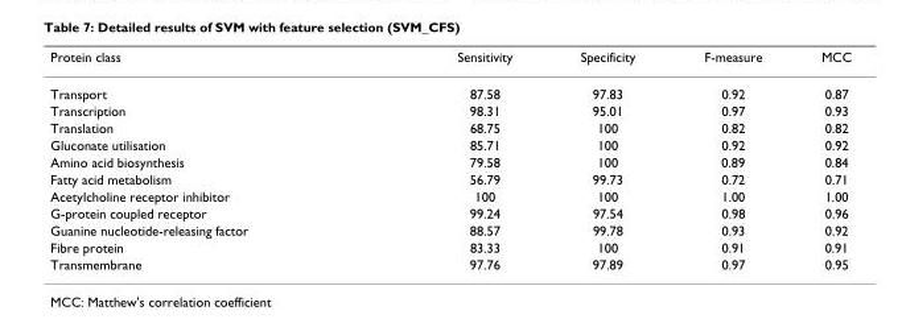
<table><thead><tr><td>Protein class</td><td>Sensitivity</td><td>Specificity</td><td>F-measure</td><td>MCC</td></tr></thead><tbody><tr><td>Transport</td><td>87.58</td><td>97.83</td><td>0.92</td><td>0.87</td></tr><tr><td>Transcription</td><td>98.31</td><td>95.01</td><td>0.97</td><td>0.93</td></tr><tr><td>Translation</td><td>68.75</td><td>100</td><td>0.82</td><td>0.82</td></tr><tr><td>Gluconate utilisation</td><td>85.71</td><td>100</td><td>0.92</td><td>0.92</td></tr><tr><td>Amino acid biosynthesis</td><td>79.58</td><td>100</td><td>0.89</td><td>0.84</td></tr><tr><td>Fatty acid metabolism</td><td>56.79</td><td>99.73</td><td>0.72</td><td>0.71</td></tr><tr><td>Acetylcholine receptor inhibitor</td><td>100</td><td>100</td><td>1.00</td><td>1.00</td></tr><tr><td>G-protein coupled receptor</td><td>99.24</td><td>97.54</td><td>0.98</td><td>0.96</td></tr><tr><td>Guanine nucleotide-releasing factor</td><td>88.57</td><td>99.78</td><td>0.93</td><td>0.92</td></tr><tr><td>Fibre protein</td><td>83.33</td><td>100</td><td>0.91</td><td>0.91</td></tr><tr><td>Transmembrane</td><td>97.76</td><td>97.89</td><td>0.97</td><td>0.95</td></tr></tbody></table>